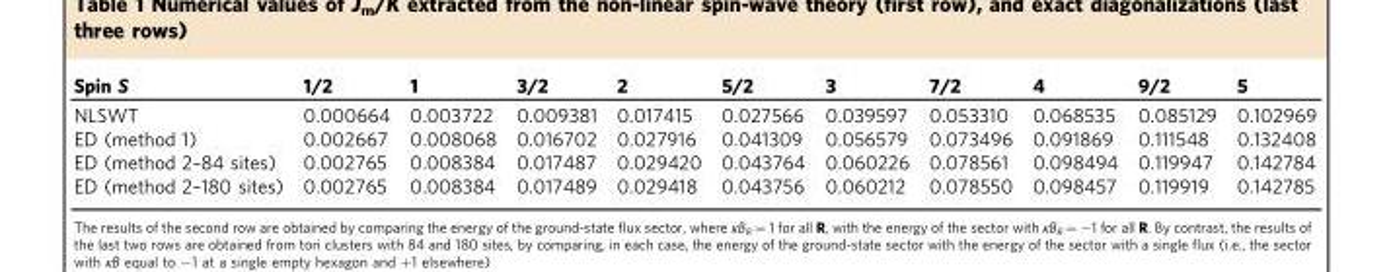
<table><thead><tr><td>Spin S</td><td>1/2</td><td>1</td><td>3/2</td><td>2</td><td>5/2</td><td>3</td><td>7/2</td><td>4</td><td>9/2</td><td>5</td></tr></thead><tbody><tr><td>NLSWT</td><td>0.000664</td><td>0.003722</td><td>0.009381</td><td>0.017415</td><td>0.027566</td><td>0.039597</td><td>0.053310</td><td>0.068535</td><td>0.085129</td><td>0.102969</td></tr><tr><td>ED (method 1)</td><td>0.002667</td><td>0.008068</td><td>0.016702</td><td>0.027916</td><td>0.041309</td><td>0.056579</td><td>0.073496</td><td>0.091869</td><td>0.111548</td><td>0.132408</td></tr><tr><td>ED (method 2–84 sites)</td><td>0.002765</td><td>0.008384</td><td>0.017487</td><td>0.029420</td><td>0.043764</td><td>0.060226</td><td>0.078561</td><td>0.098494</td><td>0.119947</td><td>0.142784</td></tr><tr><td>ED (method 2–180 sites)</td><td>0.002765</td><td>0.008384</td><td>0.017489</td><td>0.029418</td><td>0.043756</td><td>0.060212</td><td>0.078550</td><td>0.098457</td><td>0.119919</td><td>0.142785</td></tr></tbody></table>